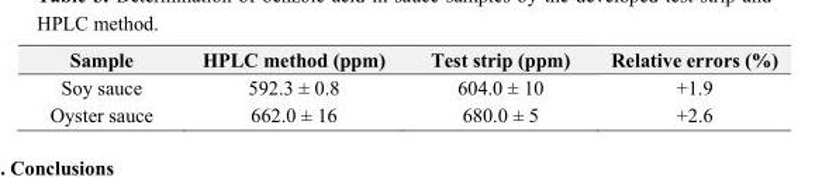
<table><thead><tr><td>Sample</td><td>HPLC method (ppm)</td><td>Test strip (ppm)</td><td>Relative errors (%)</td></tr></thead><tbody><tr><td>Soy sauce</td><td>592.3 ± 0.8</td><td>604.0 ± 10</td><td>+1.9</td></tr><tr><td>Oyster sauce</td><td>662.0 ± 16</td><td>680.0 ± 5</td><td>+2.6</td></tr></tbody></table>